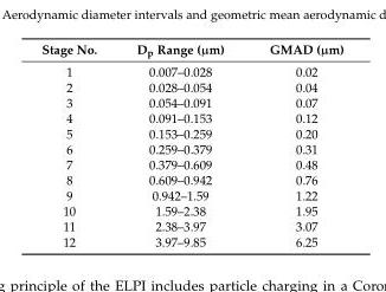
<table><thead><tr><td>Stage No.</td><td>D<sub>p</sub> Range (µm)</td><td>GMAD (µm)</td></tr></thead><tbody><tr><td>1</td><td>0.007–0.028</td><td>0.02</td></tr><tr><td>2</td><td>0.028–0.054</td><td>0.04</td></tr><tr><td>3</td><td>0.054–0.091</td><td>0.07</td></tr><tr><td>4</td><td>0.091–0.153</td><td>0.12</td></tr><tr><td>5</td><td>0.153–0.259</td><td>0.20</td></tr><tr><td>6</td><td>0.259–0.379</td><td>0.31</td></tr><tr><td>7</td><td>0.379–0.609</td><td>0.48</td></tr><tr><td>8</td><td>0.609–0.942</td><td>0.76</td></tr><tr><td>9</td><td>0.942–1.59</td><td>1.22</td></tr><tr><td>10</td><td>1.59–2.38</td><td>1.95</td></tr><tr><td>11</td><td>2.38–3.97</td><td>3.07</td></tr><tr><td>12</td><td>3.97–9.85</td><td>6.25</td></tr></tbody></table>